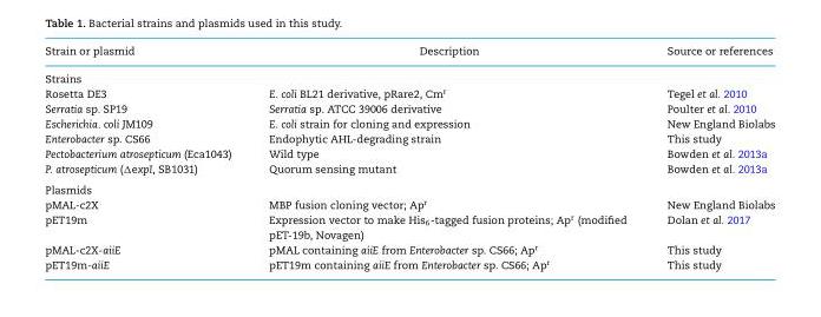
<table><thead><tr><td>Strain or plasmid</td><td>Description</td><td>Source or references</td></tr></thead><tbody><tr><td colspan="3">Strains</td></tr><tr><td>Rosetta DE3</td><td>E. coli BL21 derivative, pRare2, Cm<sup>r</sup></td><td>Tegel et al. <sup>2010</sup></td></tr><tr><td>Serratia sp. SP19</td><td>Serratia sp. ATCC 39006 derivative</td><td>Poulter et al. <sup>2010</sup></td></tr><tr><td>Escherichia. coli JM109</td><td>E. coli strain for cloning and expression</td><td>New England Biolabs</td></tr><tr><td>Enterobacter sp. CS66</td><td>Endophytic AHL-degrading strain</td><td>This study</td></tr><tr><td>Pectobacterium atrosepticum (Eca1043)</td><td>Wild type</td><td>Bowden et al. 2013a</td></tr><tr><td>P. atrosepticum (ΔexpI, SB1031)</td><td>Quorum sensing mutant</td><td>Bowden et al. 2013a</td></tr><tr><td colspan="3">Plasmids</td></tr><tr><td>pMAL-c2X</td><td>MBP fusion cloning vector; Ap<sup>r</sup></td><td>New England Biolabs</td></tr><tr><td>pET19m</td><td>Expression vector to make His<sub>6</sub>-tagged fusion proteins; Ap<sup>r</sup> (modified pET-19b, Novagen)</td><td>Dolan et al. <sup>2017</sup></td></tr><tr><td>pMAL-c2X-aiiE</td><td>pMAL containing aiiE from Enterobacter sp. CS66; Ap<sup>r</sup></td><td>This study</td></tr><tr><td>pET19m-aiiE</td><td>pET19m containing aiiE from Enterobacter sp. CS66; Ap<sup>r</sup></td><td>This study</td></tr></tbody></table>